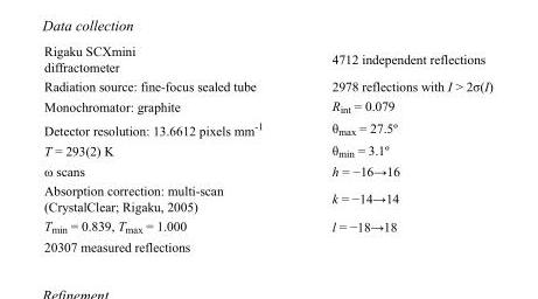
<table><tbody><tr><td>Rigaku SCXmini diffractometer</td><td>4712 independent reflections</td></tr><tr><td>Radiation source: fine-focus sealed tube</td><td>2978 reflections with I &gt; 2σ(I)</td></tr><tr><td>Monochromator: graphite</td><td>R<sub>int</sub> = 0.079</td></tr><tr><td>Detector resolution: 13.6612 pixels mm<sup>-1</sup></td><td>θ<sub>max</sub> = 27.5º</td></tr><tr><td>T = 293(2) K</td><td>θ<sub>min</sub> = 3.1º</td></tr><tr><td>ω scans</td><td>h = −16→16</td></tr><tr><td>Absorption correction: multi-scan (CrystalClear; Rigaku, 2005)</td><td>k = −14→14</td></tr><tr><td>T<sub>min</sub> = 0.839, T<sub>max</sub> = 1.000</td><td>l = −18→18</td></tr><tr><td>20307 measured reflections</td><td></td></tr></tbody></table>